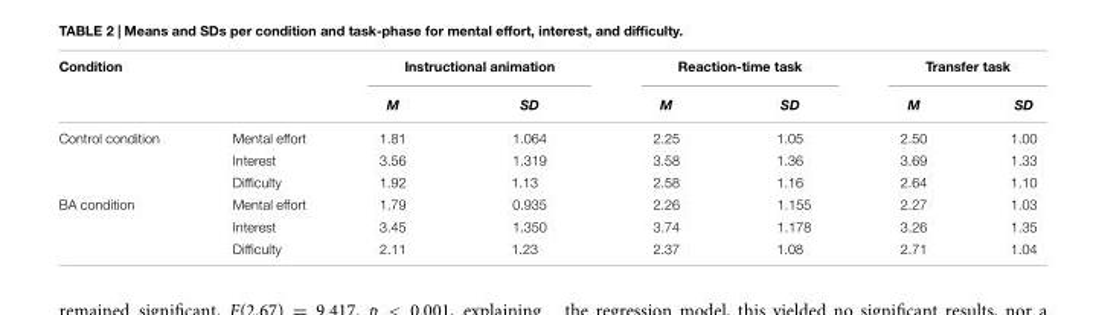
<table><thead><tr><td rowspan="2">Condition</td><td rowspan="2"></td><td colspan="2">Instructional animation</td><td colspan="2">Reaction-time task</td><td colspan="2">Transfer task</td></tr><tr><td>M</td><td>SD</td><td>M</td><td>SD</td><td>M</td><td>SD</td></tr></thead><tbody><tr><td rowspan="3">Control condition</td><td>Mental effort</td><td>1.81</td><td>1.064</td><td>2.25</td><td>1.05</td><td>2.50</td><td>1.00</td></tr><tr><td>Interest</td><td>3.56</td><td>1.319</td><td>3.58</td><td>1.36</td><td>3.69</td><td>1.33</td></tr><tr><td>Difficulty</td><td>1.92</td><td>1.13</td><td>2.58</td><td>1.16</td><td>2.64</td><td>1.10</td></tr><tr><td rowspan="3">BA condition</td><td>Mental effort</td><td>1.79</td><td>0.935</td><td>2.26</td><td>1.155</td><td>2.27</td><td>1.03</td></tr><tr><td>Interest</td><td>3.45</td><td>1.350</td><td>3.74</td><td>1.178</td><td>3.26</td><td>1.35</td></tr><tr><td>Difficulty</td><td>2.11</td><td>1.23</td><td>2.37</td><td>1.08</td><td>2.71</td><td>1.04</td></tr></tbody></table>